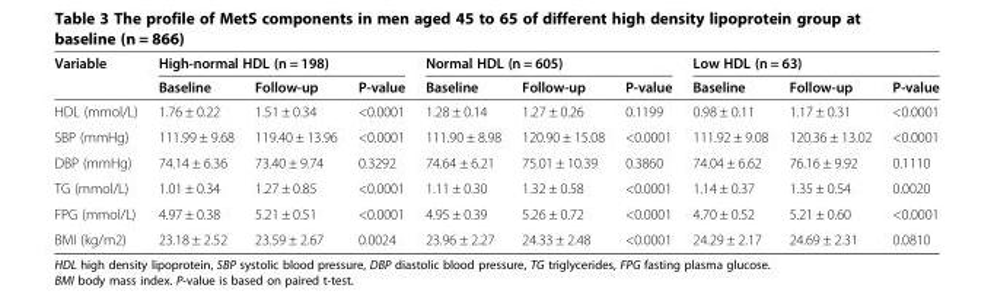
<table><thead><tr><td rowspan="2">Variable</td><td colspan="3">High-normal HDL (n = 198)</td><td colspan="3">Normal HDL (n = 605)</td><td colspan="3">Low HDL (n = 63)</td></tr><tr><td>Baseline</td><td>Follow-up</td><td>P-value</td><td>Baseline</td><td>Follow-up</td><td>P-value</td><td>Baseline</td><td>Follow-up</td><td>P-value</td></tr></thead><tbody><tr><td>HDL (mmol/L)</td><td>1.76 ± 0.22</td><td>1.51 ± 0.34</td><td>&lt;0.0001</td><td>1.28 ± 0.14</td><td>1.27 ± 0.26</td><td>0.1199</td><td>0.98 ± 0.11</td><td>1.17 ± 0.31</td><td>&lt;0.0001</td></tr><tr><td>SBP (mmHg)</td><td>111.99 ± 9.68</td><td>119.40 ± 13.96</td><td>&lt;0.0001</td><td>111.90 ± 8.98</td><td>120.90 ± 15.08</td><td>&lt;0.0001</td><td>111.92 ± 9.08</td><td>120.36 ± 13.02</td><td>&lt;0.0001</td></tr><tr><td>DBP (mmHg)</td><td>74.14 ± 6.36</td><td>73.40 ± 9.74</td><td>0.3292</td><td>74.64 ± 6.21</td><td>75.01 ± 10.39</td><td>0.3860</td><td>74.04 ± 6.62</td><td>76.16 ± 9.92</td><td>0.1110</td></tr><tr><td>TG (mmol/L)</td><td>1.01 ± 0.34</td><td>1.27 ± 0.85</td><td>&lt;0.0001</td><td>1.11 ± 0.30</td><td>1.32 ± 0.58</td><td>&lt;0.0001</td><td>1.14 ± 0.37</td><td>1.35 ± 0.54</td><td>0.0020</td></tr><tr><td>FPG (mmol/L)</td><td>4.97 ± 0.38</td><td>5.21 ± 0.51</td><td>&lt;0.0001</td><td>4.95 ± 0.39</td><td>5.26 ± 0.72</td><td>&lt;0.0001</td><td>4.70 ± 0.52</td><td>5.21 ± 0.60</td><td>&lt;0.0001</td></tr><tr><td>BMI (kg/m2)</td><td>23.18 ± 2.52</td><td>23.59 ± 2.67</td><td>0.0024</td><td>23.96 ± 2.27</td><td>24.33 ± 2.48</td><td>&lt;0.0001</td><td>24.29 ± 2.17</td><td>24.69 ± 2.31</td><td>0.0810</td></tr></tbody></table>